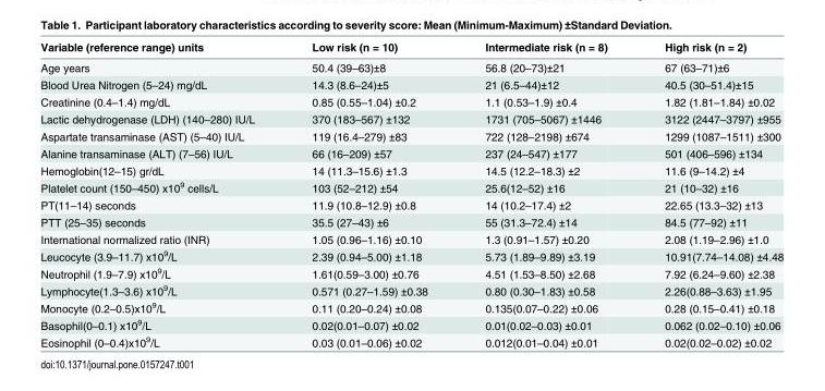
<table><thead><tr><td>Variable (reference range) units</td><td>Low risk (n = 10)</td><td>Intermediate risk (n = 8)</td><td>High risk (n = 2)</td></tr></thead><tbody><tr><td>Age years</td><td>50.4 (39–63)±8</td><td>56.8 (20–73)±21</td><td>67 (63–71)±6</td></tr><tr><td>Blood Urea Nitrogen (5–24) mg/dL</td><td>14.3 (8.6–24)±5</td><td>21 (6.5–44)±12</td><td>40.5 (30–51.4)±15</td></tr><tr><td>Creatinine (0.4–1.4) mg/dL</td><td>0.85 (0.55–1.04) ±0.2</td><td>1.1 (0.53–1.9) ±0.4</td><td>1.82 (1.81–1.84) ±0.02</td></tr><tr><td>Lactic dehydrogenase (LDH) (140–280) IU/L</td><td>370 (183–567) ±132</td><td>1731 (705–5067) ±1446</td><td>3122 (2447–3797) ±955</td></tr><tr><td>Aspartate transaminase (AST) (5–40) IU/L</td><td>119 (16.4–279) ±83</td><td>722 (128–2198) ±674</td><td>1299 (1087–1511) ±300</td></tr><tr><td>Alanine transaminase (ALT) (7–56) IU/L</td><td>66 (16–209) ±57</td><td>237 (24–547) ±177</td><td>501 (406–596) ±134</td></tr><tr><td>Hemoglobin(12–15) gr/dL</td><td>14 (11.3–15.6) ±1.3</td><td>14.5 (12.2–18.3) ±2</td><td>11.6 (9–14.2) ±4</td></tr><tr><td>Platelet count (150–450) x10<sup>9</sup> cells/L</td><td>103 (52–212) ±54</td><td>25.6(12–52) ±16</td><td>21 (10–32) ±16</td></tr><tr><td>PT(11–14) seconds</td><td>11.9 (10.8–12.9) ±0.8</td><td>14 (10.2–17.4) ±2</td><td>22.65 (13.3–32) ±13</td></tr><tr><td>PTT (25–35) seconds</td><td>35.5 (27–43) ±6</td><td>55 (31.3–72.4) ±14</td><td>84.5 (77–92) ±11</td></tr><tr><td>International normalized ratio (INR)</td><td>1.05 (0.96–1.16) ±0.10</td><td>1.3 (0.91–1.57) ±0.20</td><td>2.08 (1.19–2.96) ±1.0</td></tr><tr><td>Leucocyte (3.9–11.7) x10<sup>9</sup>/L</td><td>2.39 (0.94–5.00) ±1.18</td><td>5.73 (1.89–9.89) ±3.19</td><td>10.91(7.74–14.08) ±4.48</td></tr><tr><td>Neutrophil (1.9–7.9) x10<sup>9</sup>/L</td><td>1.61(0.59–3.00) ±0.76</td><td>4.51 (1.53–8.50) ±2.68</td><td>7.92 (6.24–9.60) ±2.38</td></tr><tr><td>Lymphocyte(1.3–3.6) x10<sup>9</sup>/L</td><td>0.571 (0.27–1.59) ±0.38</td><td>0.80 (0.30–1.83) ±0.58</td><td>2.26(0.88–3.63) ±1.95</td></tr><tr><td>Monocyte (0.2–0.5)x10<sup>9</sup>/L</td><td>0.11 (0.20–0.24) ±0.08</td><td>0.135(0.07–0.22) ±0.06</td><td>0.28 (0.15–0.41) ±0.18</td></tr><tr><td>Basophil(0–0.1) x10<sup>9</sup>/L</td><td>0.02(0.01–0.07) ±0.02</td><td>0.01(0.02–0.03) ±0.01</td><td>0.062 (0.02–0.10) ±0.06</td></tr><tr><td>Eosinophil (0–0.4)x10<sup>9</sup>/L</td><td>0.03 (0.01–0.06) ±0.02</td><td>0.012(0.01–0.04) ±0.01</td><td>0.02(0.02–0.02) ±0.02</td></tr></tbody></table>